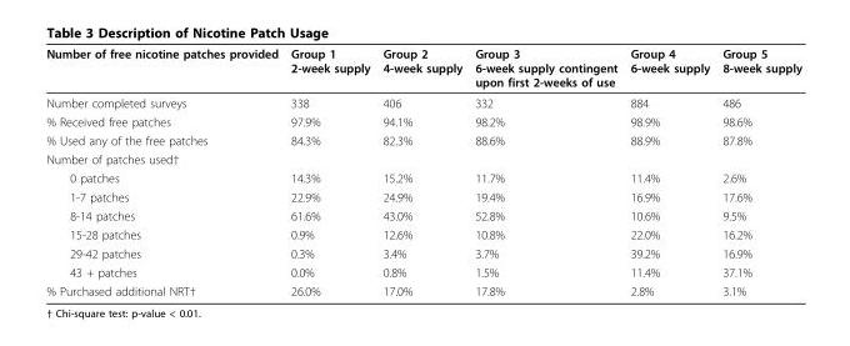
<table><thead><tr><td>Number of free nicotine patches provided</td><td>Group 1 2-week supply</td><td>Group 2 4-week supply</td><td>Group 3 6-week supply contingent upon first 2-weeks of use</td><td>Group 4 6-week supply</td><td>Group 5 8-week supply</td></tr></thead><tbody><tr><td>Number completed surveys</td><td>338</td><td>406</td><td>332</td><td>884</td><td>486</td></tr><tr><td>% Received free patches</td><td>97.9%</td><td>94.1%</td><td>98.2%</td><td>98.9%</td><td>98.6%</td></tr><tr><td>% Used any of the free patches</td><td>84.3%</td><td>82.3%</td><td>88.6%</td><td>88.9%</td><td>87.8%</td></tr><tr><td colspan="6">Number of patches used†</td></tr><tr><td>0 patches</td><td>14.3%</td><td>15.2%</td><td>11.7%</td><td>11.4%</td><td>2.6%</td></tr><tr><td>1-7 patches</td><td>22.9%</td><td>24.9%</td><td>19.4%</td><td>16.9%</td><td>17.6%</td></tr><tr><td>8-14 patches</td><td>61.6%</td><td>43.0%</td><td>52.8%</td><td>10.6%</td><td>9.5%</td></tr><tr><td>15-28 patches</td><td>0.9%</td><td>12.6%</td><td>10.8%</td><td>22.0%</td><td>16.2%</td></tr><tr><td>29-42 patches</td><td>0.3%</td><td>3.4%</td><td>3.7%</td><td>39.2%</td><td>16.9%</td></tr><tr><td>43 + patches</td><td>0.0%</td><td>0.8%</td><td>1.5%</td><td>11.4%</td><td>37.1%</td></tr><tr><td>% Purchased additional NRT†</td><td>26.0%</td><td>17.0%</td><td>17.8%</td><td>2.8%</td><td>3.1%</td></tr></tbody></table>